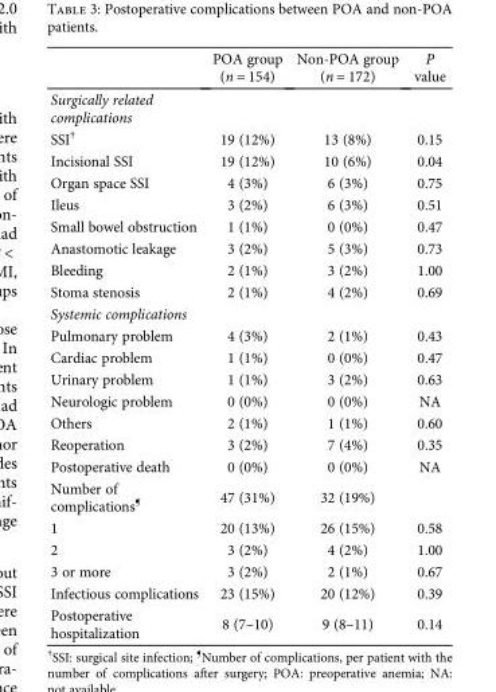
<table><thead><tr><td></td><td>POA group (n = 154)</td><td>Non-POA group (n = 172)</td><td>P value</td></tr></thead><tbody><tr><td colspan="4">Surgically related complications</td></tr><tr><td>SSI<sup>†</sup></td><td>19 (12%)</td><td>13 (8%)</td><td>0.15</td></tr><tr><td>Incisional SSI</td><td>19 (12%)</td><td>10 (6%)</td><td>0.04</td></tr><tr><td>Organ space SSI</td><td>4 (3%)</td><td>6 (3%)</td><td>0.75</td></tr><tr><td>Ileus</td><td>3 (2%)</td><td>6 (3%)</td><td>0.51</td></tr><tr><td>Small bowel obstruction</td><td>1 (1%)</td><td>0 (0%)</td><td>0.47</td></tr><tr><td>Anastomotic leakage</td><td>3 (2%)</td><td>5 (3%)</td><td>0.73</td></tr><tr><td>Bleeding</td><td>2 (1%)</td><td>3 (2%)</td><td>1.00</td></tr><tr><td>Stoma stenosis</td><td>2 (1%)</td><td>4 (2%)</td><td>0.69</td></tr><tr><td colspan="4">Systemic complications</td></tr><tr><td>Pulmonary problem</td><td>4 (3%)</td><td>2 (1%)</td><td>0.43</td></tr><tr><td>Cardiac problem</td><td>1 (1%)</td><td>0 (0%)</td><td>0.47</td></tr><tr><td>Urinary problem</td><td>1 (1%)</td><td>3 (2%)</td><td>0.63</td></tr><tr><td>Neurologic problem</td><td>0 (0%)</td><td>0 (0%)</td><td>NA</td></tr><tr><td>Others</td><td>2 (1%)</td><td>1 (1%)</td><td>0.60</td></tr><tr><td>Reoperation</td><td>3 (2%)</td><td>7 (4%)</td><td>0.35</td></tr><tr><td>Postoperative death</td><td>0 (0%)</td><td>0 (0%)</td><td>NA</td></tr><tr><td>Number of complications<sup>¶</sup></td><td>47 (31%)</td><td>32 (19%)</td><td></td></tr><tr><td>1</td><td>20 (13%)</td><td>26 (15%)</td><td>0.58</td></tr><tr><td>2</td><td>3 (2%)</td><td>4 (2%)</td><td>1.00</td></tr><tr><td>3 or more</td><td>3 (2%)</td><td>2 (1%)</td><td>0.67</td></tr><tr><td>Infectious complications</td><td>23 (15%)</td><td>20 (12%)</td><td>0.39</td></tr><tr><td>Postoperative hospitalization</td><td>8 (7–10)</td><td>9 (8–11)</td><td>0.14</td></tr></tbody></table>